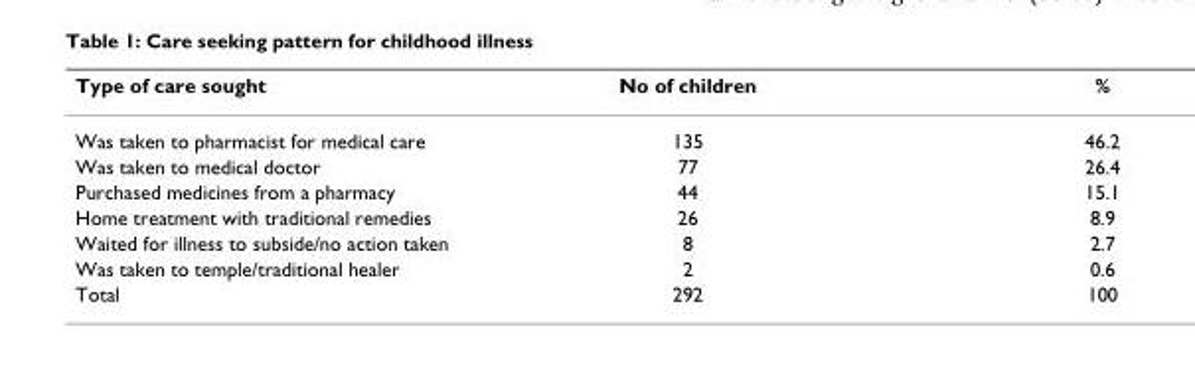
<table><thead><tr><td>Type of care sought</td><td>No of children</td><td>%</td></tr></thead><tbody><tr><td>Was taken to pharmacist for medical care</td><td>135</td><td>46.2</td></tr><tr><td>Was taken to medical doctor</td><td>77</td><td>26.4</td></tr><tr><td>Purchased medicines from a pharmacy</td><td>44</td><td>15.1</td></tr><tr><td>Home treatment with traditional remedies</td><td>26</td><td>8.9</td></tr><tr><td>Waited for illness to subside/no action taken</td><td>8</td><td>2.7</td></tr><tr><td>Was taken to temple/traditional healer</td><td>2</td><td>0.6</td></tr><tr><td>Total</td><td>292</td><td>100</td></tr></tbody></table>